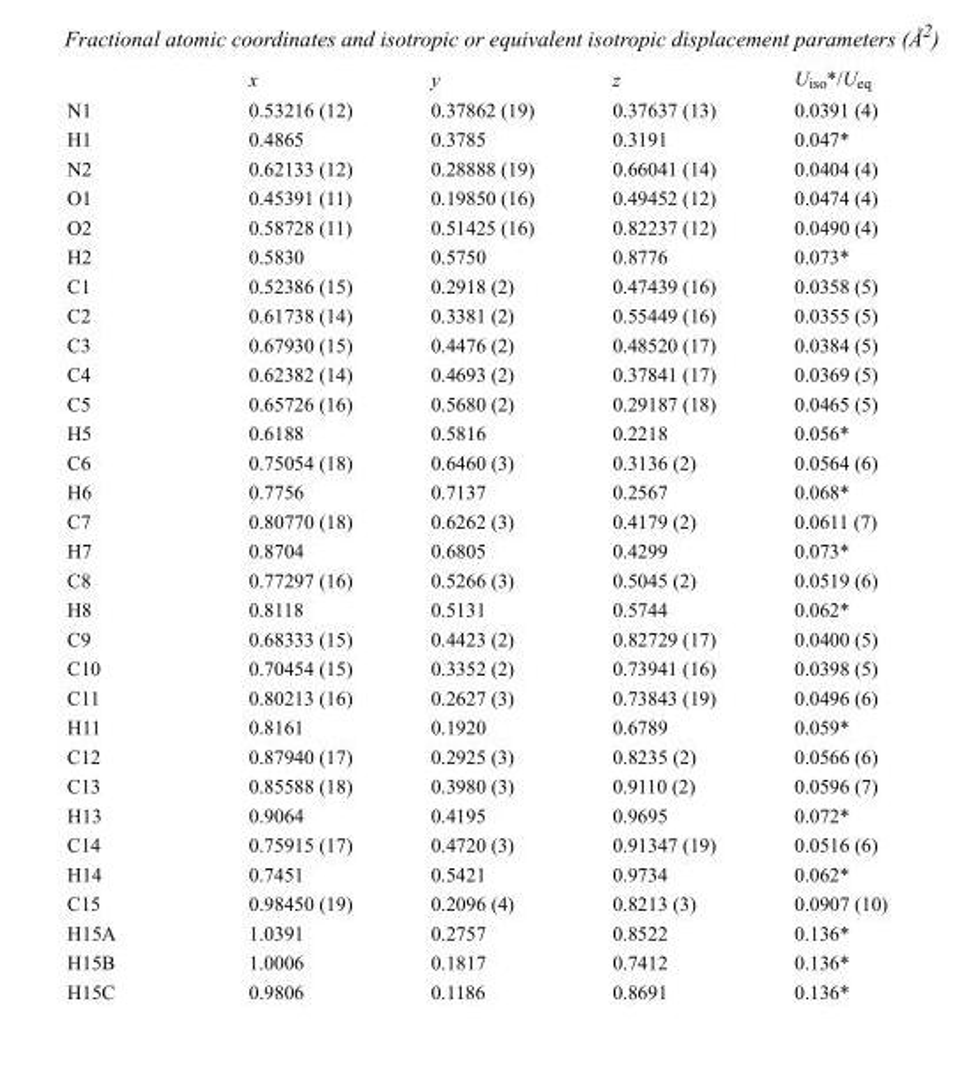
<table><thead><tr><td></td><td>x</td><td>y</td><td>z</td><td>U<sub>iso</sub>*/U<sub>eq</sub></td></tr></thead><tbody><tr><td>N1</td><td>0.53216 (12)</td><td>0.37862 (19)</td><td>0.37637 (13)</td><td>0.0391 (4)</td></tr><tr><td>H1</td><td>0.4865</td><td>0.3785</td><td>0.3191</td><td>0.047*</td></tr><tr><td>N2</td><td>0.62133 (12)</td><td>0.28888 (19)</td><td>0.66041 (14)</td><td>0.0404 (4)</td></tr><tr><td>O1</td><td>0.45391 (11)</td><td>0.19850 (16)</td><td>0.49452 (12)</td><td>0.0474 (4)</td></tr><tr><td>O2</td><td>0.58728 (11)</td><td>0.51425 (16)</td><td>0.82237 (12)</td><td>0.0490 (4)</td></tr><tr><td>H2</td><td>0.5830</td><td>0.5750</td><td>0.8776</td><td>0.073*</td></tr><tr><td>C1</td><td>0.52386 (15)</td><td>0.2918 (2)</td><td>0.47439 (16)</td><td>0.0358 (5)</td></tr><tr><td>C2</td><td>0.61738 (14)</td><td>0.3381 (2)</td><td>0.55449 (16)</td><td>0.0355 (5)</td></tr><tr><td>C3</td><td>0.67930 (15)</td><td>0.4476 (2)</td><td>0.48520 (17)</td><td>0.0384 (5)</td></tr><tr><td>C4</td><td>0.62382 (14)</td><td>0.4693 (2)</td><td>0.37841 (17)</td><td>0.0369 (5)</td></tr><tr><td>C5</td><td>0.65726 (16)</td><td>0.5680 (2)</td><td>0.29187 (18)</td><td>0.0465 (5)</td></tr><tr><td>H5</td><td>0.6188</td><td>0.5816</td><td>0.2218</td><td>0.056*</td></tr><tr><td>C6</td><td>0.75054 (18)</td><td>0.6460 (3)</td><td>0.3136 (2)</td><td>0.0564 (6)</td></tr><tr><td>H6</td><td>0.7756</td><td>0.7137</td><td>0.2567</td><td>0.068*</td></tr><tr><td>C7</td><td>0.80770 (18)</td><td>0.6262 (3)</td><td>0.4179 (2)</td><td>0.0611 (7)</td></tr><tr><td>H7</td><td>0.8704</td><td>0.6805</td><td>0.4299</td><td>0.073*</td></tr><tr><td>C8</td><td>0.77297 (16)</td><td>0.5266 (3)</td><td>0.5045 (2)</td><td>0.0519 (6)</td></tr><tr><td>H8</td><td>0.8118</td><td>0.5131</td><td>0.5744</td><td>0.062*</td></tr><tr><td>C9</td><td>0.68333 (15)</td><td>0.4423 (2)</td><td>0.82729 (17)</td><td>0.0400 (5)</td></tr><tr><td>C10</td><td>0.70454 (15)</td><td>0.3352 (2)</td><td>0.73941 (16)</td><td>0.0398 (5)</td></tr><tr><td>C11</td><td>0.80213 (16)</td><td>0.2627 (3)</td><td>0.73843 (19)</td><td>0.0496 (6)</td></tr><tr><td>H11</td><td>0.8161</td><td>0.1920</td><td>0.6789</td><td>0.059*</td></tr><tr><td>C12</td><td>0.87940 (17)</td><td>0.2925 (3)</td><td>0.8235 (2)</td><td>0.0566 (6)</td></tr><tr><td>C13</td><td>0.85588 (18)</td><td>0.3980 (3)</td><td>0.9110 (2)</td><td>0.0596 (7)</td></tr><tr><td>H13</td><td>0.9064</td><td>0.4195</td><td>0.9695</td><td>0.072*</td></tr><tr><td>C14</td><td>0.75915 (17)</td><td>0.4720 (3)</td><td>0.91347 (19)</td><td>0.0516 (6)</td></tr><tr><td>H14</td><td>0.7451</td><td>0.5421</td><td>0.9734</td><td>0.062*</td></tr><tr><td>C15</td><td>0.98450 (19)</td><td>0.2096 (4)</td><td>0.8213 (3)</td><td>0.0907 (10)</td></tr><tr><td>H15A</td><td>1.0391</td><td>0.2757</td><td>0.8522</td><td>0.136*</td></tr><tr><td>H15B</td><td>1.0006</td><td>0.1817</td><td>0.7412</td><td>0.136*</td></tr><tr><td>H15C</td><td>0.9806</td><td>0.1186</td><td>0.8691</td><td>0.136*</td></tr></tbody></table>